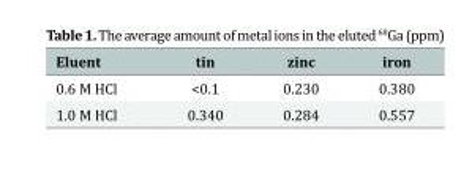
<table><thead><tr><td>Eluent</td><td>tin</td><td>zinc</td><td>iron</td></tr></thead><tbody><tr><td>0.6 M HCl</td><td>&lt;0.1</td><td>0.230</td><td>0.380</td></tr><tr><td>1.0 M HCl</td><td>0.340</td><td>0.284</td><td>0.557</td></tr></tbody></table>